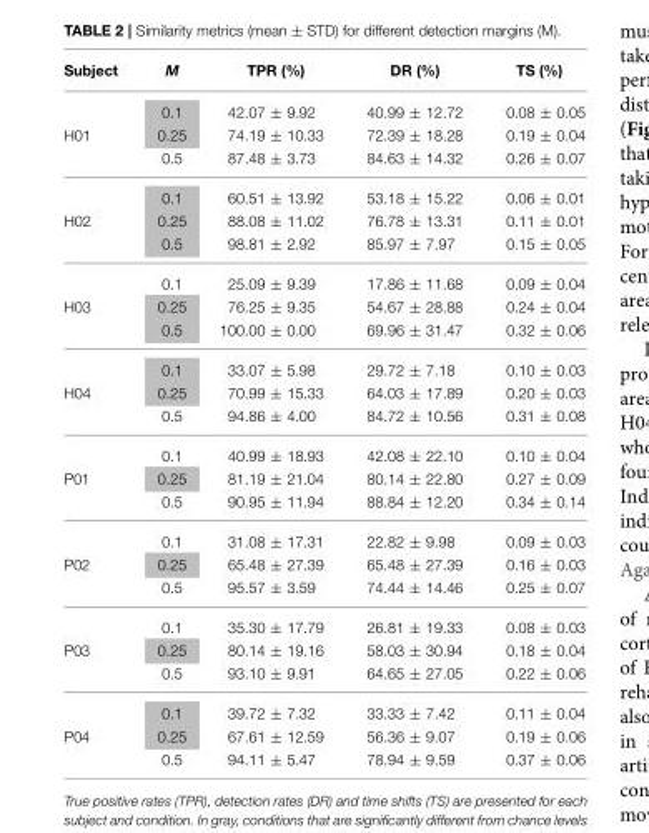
<table><thead><tr><td>Subject</td><td>M</td><td>TPR (%)</td><td>DR (%)</td><td>TS (%)</td></tr></thead><tbody><tr><td></td><td>0.1</td><td>42.07 ± 9.92</td><td>40.99 ± 12.72</td><td>0.08 ± 0.05</td></tr><tr><td rowspan="3">H01</td><td>0.25</td><td>74.19 ± 10.33</td><td>72.39 ± 18.28</td><td>0.19 ± 0.04</td></tr><tr><td>0.5</td><td>87.48 ± 3.73</td><td>84.63 ± 14.32</td><td>0.26 ± 0.07</td></tr><tr><td>0.1</td><td>60.51 ± 13.92</td><td>53.18 ± 15.22</td><td>0.06 ± 0.01</td></tr><tr><td rowspan="3">H02</td><td>0.25</td><td>88.08 ± 11.02</td><td>76.78 ± 13.31</td><td>0.11 ± 0.01</td></tr><tr><td>0.5</td><td>98.81 ± 2.92</td><td>85.97 ± 7.97</td><td>0.15 ± 0.05</td></tr><tr><td>0.1</td><td>25.09 ± 9.39</td><td>17.86 ± 11.68</td><td>0.09 ± 0.04</td></tr><tr><td rowspan="3">H03</td><td>0.25</td><td>76.25 ± 9.35</td><td>54.67 ± 28.88</td><td>0.24 ± 0.04</td></tr><tr><td>0.5</td><td>100.00 ± 0.00</td><td>69.96 ± 31.47</td><td>0.32 ± 0.06</td></tr><tr><td>0.1</td><td>33.07 ± 5.98</td><td>29.72 ± 7.18</td><td>0.10 ± 0.03</td></tr><tr><td rowspan="3">H04</td><td>0.25</td><td>70.99 ± 15.33</td><td>64.03 ± 17.89</td><td>0.20 ± 0.03</td></tr><tr><td>0.5</td><td>94.86 ± 4.00</td><td>84.72 ± 10.56</td><td>0.31 ± 0.08</td></tr><tr><td>0.1</td><td>40.99 ± 18.93</td><td>42.08 ± 22.10</td><td>0.10 ± 0.04</td></tr><tr><td rowspan="3">P01</td><td>0.25</td><td>81.19 ± 21.04</td><td>80.14 ± 22.80</td><td>0.27 ± 0.09</td></tr><tr><td>0.5</td><td>90.95 ± 11.94</td><td>88.84 ± 12.20</td><td>0.34 ± 0.14</td></tr><tr><td>0.1</td><td>31.08 ± 17.31</td><td>22.82 ± 9.98</td><td>0.09 ± 0.03</td></tr><tr><td rowspan="3">P02</td><td>0.25</td><td>65.48 ± 27.39</td><td>65.48 ± 27.39</td><td>0.16 ± 0.03</td></tr><tr><td>0.5</td><td>95.57 ± 3.59</td><td>74.44 ± 14.46</td><td>0.25 ± 0.07</td></tr><tr><td>0.1</td><td>35.30 ± 17.79</td><td>26.81 ± 19.33</td><td>0.08 ± 0.03</td></tr><tr><td rowspan="3">P03</td><td>0.25</td><td>80.14 ± 19.16</td><td>58.03 ± 30.94</td><td>0.18 ± 0.04</td></tr><tr><td>0.5</td><td>93.10 ± 9.91</td><td>64.65 ± 27.05</td><td>0.22 ± 0.06</td></tr><tr><td>0.1</td><td>39.72 ± 7.32</td><td>33.33 ± 7.42</td><td>0.11 ± 0.04</td></tr><tr><td rowspan="2">P04</td><td>0.25</td><td>67.61 ± 12.59</td><td>56.36 ± 9.07</td><td>0.19 ± 0.06</td></tr><tr><td>0.5</td><td>94.11 ± 5.47</td><td>78.94 ± 9.59</td><td>0.37 ± 0.06</td></tr></tbody></table>